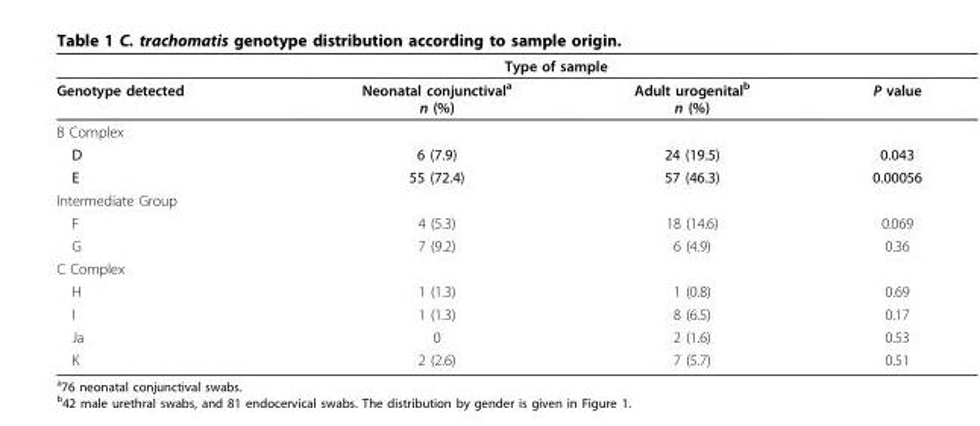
<table><thead><tr><td rowspan="2">Genotype detected</td><td colspan="2">Type of sample</td><td rowspan="2">P value</td></tr><tr><td>Neonatal conjunctival<sup>a</sup> n (%)</td><td>Adult urogenital<sup>b</sup> n (%)</td></tr></thead><tbody><tr><td colspan="4">B Complex</td></tr><tr><td>D</td><td>6 (7.9)</td><td>24 (19.5)</td><td>0.043</td></tr><tr><td>E</td><td>55 (72.4)</td><td>57 (46.3)</td><td>0.00056</td></tr><tr><td colspan="4">Intermediate Group</td></tr><tr><td>F</td><td>4 (5.3)</td><td>18 (14.6)</td><td>0.069</td></tr><tr><td>G</td><td>7 (9.2)</td><td>6 (4.9)</td><td>0.36</td></tr><tr><td colspan="4">C Complex</td></tr><tr><td>H</td><td>1 (1.3)</td><td>1 (0.8)</td><td>0.69</td></tr><tr><td>I</td><td>1 (1.3)</td><td>8 (6.5)</td><td>0.17</td></tr><tr><td>Ja</td><td>0</td><td>2 (1.6)</td><td>0.53</td></tr><tr><td>K</td><td>2 (2.6)</td><td>7 (5.7)</td><td>0.51</td></tr></tbody></table>